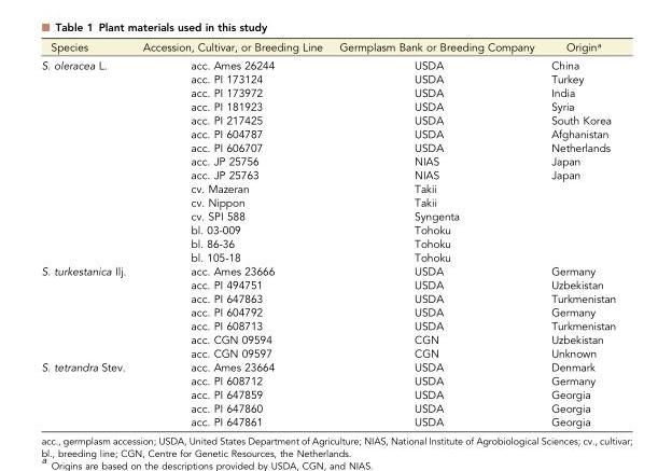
<table><thead><tr><td>Species</td><td>Accession, Cultivar, or Breeding Line</td><td>Germplasm Bank or Breeding Company</td><td>Origin<sup>a</sup></td></tr></thead><tbody><tr><td rowspan="15">S. oleracea L.</td><td>acc. Ames 26244</td><td>USDA</td><td>China</td></tr><tr><td>acc. PI 173124</td><td>USDA</td><td>Turkey</td></tr><tr><td>acc. PI 173972</td><td>USDA</td><td>India</td></tr><tr><td>acc. PI 181923</td><td>USDA</td><td>Syria</td></tr><tr><td>acc. PI 217425</td><td>USDA</td><td>South Korea</td></tr><tr><td>acc. PI 604787</td><td>USDA</td><td>Afghanistan</td></tr><tr><td>acc. PI 606707</td><td>USDA</td><td>Netherlands</td></tr><tr><td>acc. JP 25756</td><td>NIAS</td><td>Japan</td></tr><tr><td>acc. JP 25763</td><td>NIAS</td><td>Japan</td></tr><tr><td>cv. Mazeran</td><td>Takii</td><td></td></tr><tr><td>cv. Nippon</td><td>Takii</td><td></td></tr><tr><td>cv. SPI 588</td><td>Syngenta</td><td></td></tr><tr><td>bl. 03-009</td><td>Tohoku</td><td></td></tr><tr><td>bl. 86-36</td><td>Tohoku</td><td></td></tr><tr><td>bl. 105-18</td><td>Tohoku</td><td></td></tr><tr><td rowspan="7">S. turkestanica Ilj.</td><td>acc. Ames 23666</td><td>USDA</td><td>Germany</td></tr><tr><td>acc. PI 494751</td><td>USDA</td><td>Uzbekistan</td></tr><tr><td>acc. PI 647863</td><td>USDA</td><td>Turkmenistan</td></tr><tr><td>acc. PI 604792</td><td>USDA</td><td>Germany</td></tr><tr><td>acc. PI 608713</td><td>USDA</td><td>Turkmenistan</td></tr><tr><td>acc. CGN 09594</td><td>CGN</td><td>Uzbekistan</td></tr><tr><td>acc. CGN 09597</td><td>CGN</td><td>Unknown</td></tr><tr><td rowspan="5">S. tetrandra Stev.</td><td>acc. Ames 23664</td><td>USDA</td><td>Denmark</td></tr><tr><td>acc. PI 608712</td><td>USDA</td><td>Germany</td></tr><tr><td>acc. PI 647859</td><td>USDA</td><td>Georgia</td></tr><tr><td>acc. PI 647860</td><td>USDA</td><td>Georgia</td></tr><tr><td>acc. PI 647861</td><td>USDA</td><td>Georgia</td></tr></tbody></table>